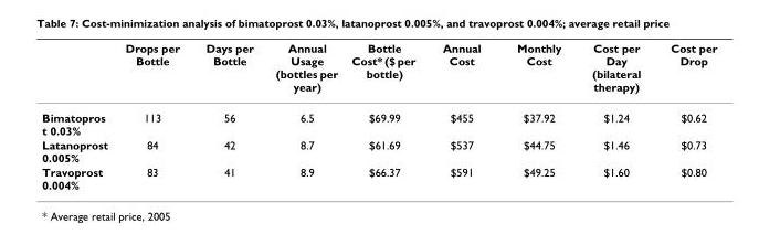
<table><thead><tr><td></td><td>Drops per Bottle</td><td>Days per Bottle</td><td>Annual Usage (bottles per year)</td><td>Bottle Cost* ($ per bottle)</td><td>Annual Cost</td><td>Monthly Cost</td><td>Cost per Day (bilateral therapy)</td><td>Cost per Drop</td></tr></thead><tbody><tr><td>Bimatopros t 0.03%</td><td>113</td><td>56</td><td>6.5</td><td>$69.99</td><td>$455</td><td>$37.92</td><td>$1.24</td><td>$0.62</td></tr><tr><td>Latanoprost 0.005%</td><td>84</td><td>42</td><td>8.7</td><td>$61.69</td><td>$537</td><td>$44.75</td><td>$1.46</td><td>$0.73</td></tr><tr><td>Travoprost 0.004%</td><td>83</td><td>41</td><td>8.9</td><td>$66.37</td><td>$591</td><td>$49.25</td><td>$1.60</td><td>$0.80</td></tr></tbody></table>